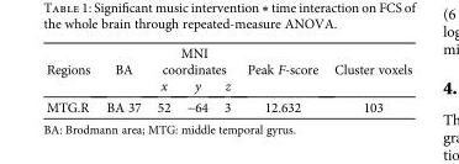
<table><thead><tr><td rowspan="2">Regions</td><td rowspan="2">BA</td><td colspan="3">MNI coordinates</td><td rowspan="2">Peak F-score</td><td rowspan="2">Cluster voxels</td></tr><tr><td>x</td><td>y</td><td>z</td></tr></thead><tbody><tr><td>MTG.R</td><td>BA 37</td><td>52</td><td>−64</td><td>3</td><td>12.632</td><td>103</td></tr></tbody></table>